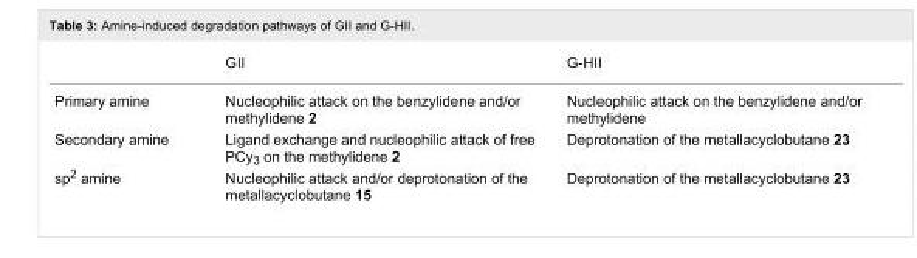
<table><thead><tr><td></td><td>GII</td><td>G-HII</td></tr></thead><tbody><tr><td>Primary amine</td><td>Nucleophilic attack on the benzylidene and/or methylidene 2</td><td>Nucleophilic attack on the benzylidene and/or methylidene</td></tr><tr><td>Secondary amine</td><td>Ligand exchange and nucleophilic attack of free PCy<sub>3</sub> on the methylidene 2</td><td>Deprotonation of the metallacyclobutane 23</td></tr><tr><td>sp<sup>2</sup> amine</td><td>Nucleophilic attack and/or deprotonation of the metallacyclobutane 15</td><td>Deprotonation of the metallacyclobutane 23</td></tr></tbody></table>